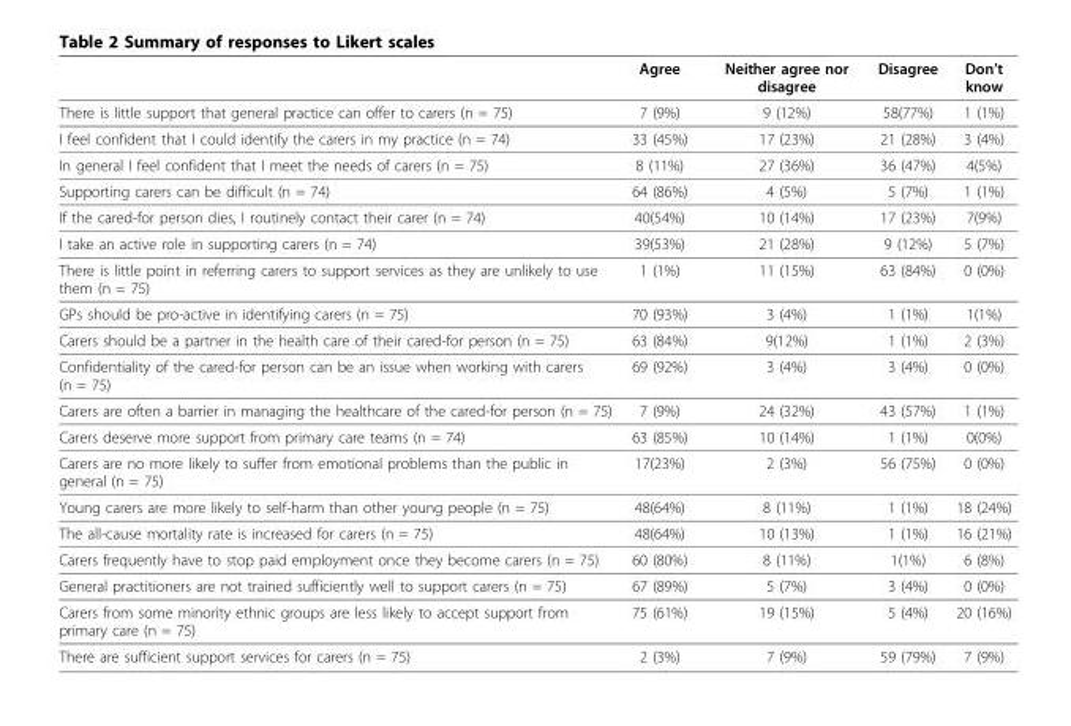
<table><thead><tr><td></td><td>Agree</td><td>Neither agree nor disagree</td><td>Disagree</td><td>Don’t know</td></tr></thead><tbody><tr><td>There is little support that general practice can offer to carers (n = 75)</td><td>7 (9%)</td><td>9 (12%)</td><td>58(77%)</td><td>1 (1%)</td></tr><tr><td>I feel confident that I could identify the carers in my practice (n = 74)</td><td>33 (45%)</td><td>17 (23%)</td><td>21 (28%)</td><td>3 (4%)</td></tr><tr><td>In general I feel confident that I meet the needs of carers (n = 75)</td><td>8 (11%)</td><td>27 (36%)</td><td>36 (47%)</td><td>4(5%)</td></tr><tr><td>Supporting carers can be difficult (n = 74)</td><td>64 (86%)</td><td>4 (5%)</td><td>5 (7%)</td><td>1 (1%)</td></tr><tr><td>If the cared-for person dies, I routinely contact their carer (n = 74)</td><td>40(54%)</td><td>10 (14%)</td><td>17 (23%)</td><td>7(9%)</td></tr><tr><td>I take an active role in supporting carers (n = 74)</td><td>39(53%)</td><td>21 (28%)</td><td>9 (12%)</td><td>5 (7%)</td></tr><tr><td>There is little point in referring carers to support services as they are unlikely to use them (n = 75)</td><td>1 (1%)</td><td>11 (15%)</td><td>63 (84%)</td><td>0 (0%)</td></tr><tr><td>GPs should be pro-active in identifying carers (n = 75)</td><td>70 (93%)</td><td>3 (4%)</td><td>1 (1%)</td><td>1(1%)</td></tr><tr><td>Carers should be a partner in the health care of their cared-for person (n = 75)</td><td>63 (84%)</td><td>9(12%)</td><td>1 (1%)</td><td>2 (3%)</td></tr><tr><td>Confidentiality of the cared-for person can be an issue when working with carers (n = 75)</td><td>69 (92%)</td><td>3 (4%)</td><td>3 (4%)</td><td>0 (0%)</td></tr><tr><td>Carers are often a barrier in managing the healthcare of the cared-for person (n = 75)</td><td>7 (9%)</td><td>24 (32%)</td><td>43 (57%)</td><td>1 (1%)</td></tr><tr><td>Carers deserve more support from primary care teams (n = 74)</td><td>63 (85%)</td><td>10 (14%)</td><td>1 (1%)</td><td>0(0%)</td></tr><tr><td>Carers are no more likely to suffer from emotional problems than the public in general (n = 75)</td><td>17(23%)</td><td>2 (3%)</td><td>56 (75%)</td><td>0 (0%)</td></tr><tr><td>Young carers are more likely to self-harm than other young people (n = 75)</td><td>48(64%)</td><td>8 (11%)</td><td>1 (1%)</td><td>18 (24%)</td></tr><tr><td>The all-cause mortality rate is increased for carers (n = 75)</td><td>48(64%)</td><td>10 (13%)</td><td>1 (1%)</td><td>16 (21%)</td></tr><tr><td>Carers frequently have to stop paid employment once they become carers (n = 75)</td><td>60 (80%)</td><td>8 (11%)</td><td>1(1%)</td><td>6 (8%)</td></tr><tr><td>General practitioners are not trained sufficiently well to support carers (n = 75)</td><td>67 (89%)</td><td>5 (7%)</td><td>3 (4%)</td><td>0 (0%)</td></tr><tr><td>Carers from some minority ethnic groups are less likely to accept support from primary care (n = 75)</td><td>75 (61%)</td><td>19 (15%)</td><td>5 (4%)</td><td>20 (16%)</td></tr><tr><td>There are sufficient support services for carers (n = 75)</td><td>2 (3%)</td><td>7 (9%)</td><td>59 (79%)</td><td>7 (9%)</td></tr></tbody></table>